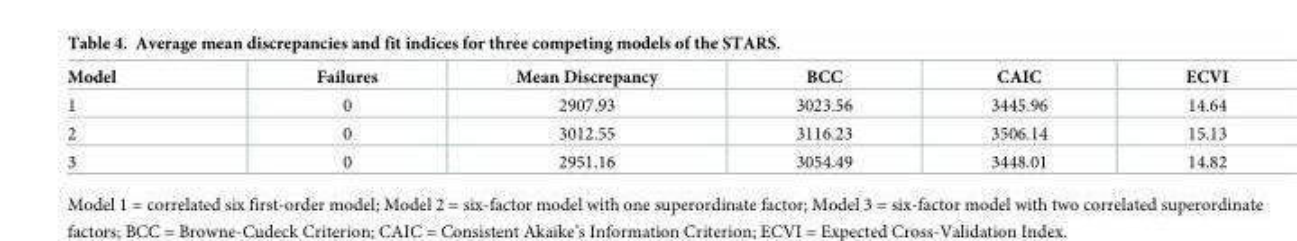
<table><thead><tr><td>Model</td><td>Failures</td><td>Mean Discrepancy</td><td>BCC</td><td>CAIC</td><td>ECVI</td></tr></thead><tbody><tr><td>1</td><td>0</td><td>2907.93</td><td>3023.56</td><td>3445.96</td><td>14.64</td></tr><tr><td>2</td><td>0</td><td>3012.55</td><td>3116.23</td><td>3506.14</td><td>15.13</td></tr><tr><td>3</td><td>0</td><td>2951.16</td><td>3054.49</td><td>3448.01</td><td>14.82</td></tr></tbody></table>